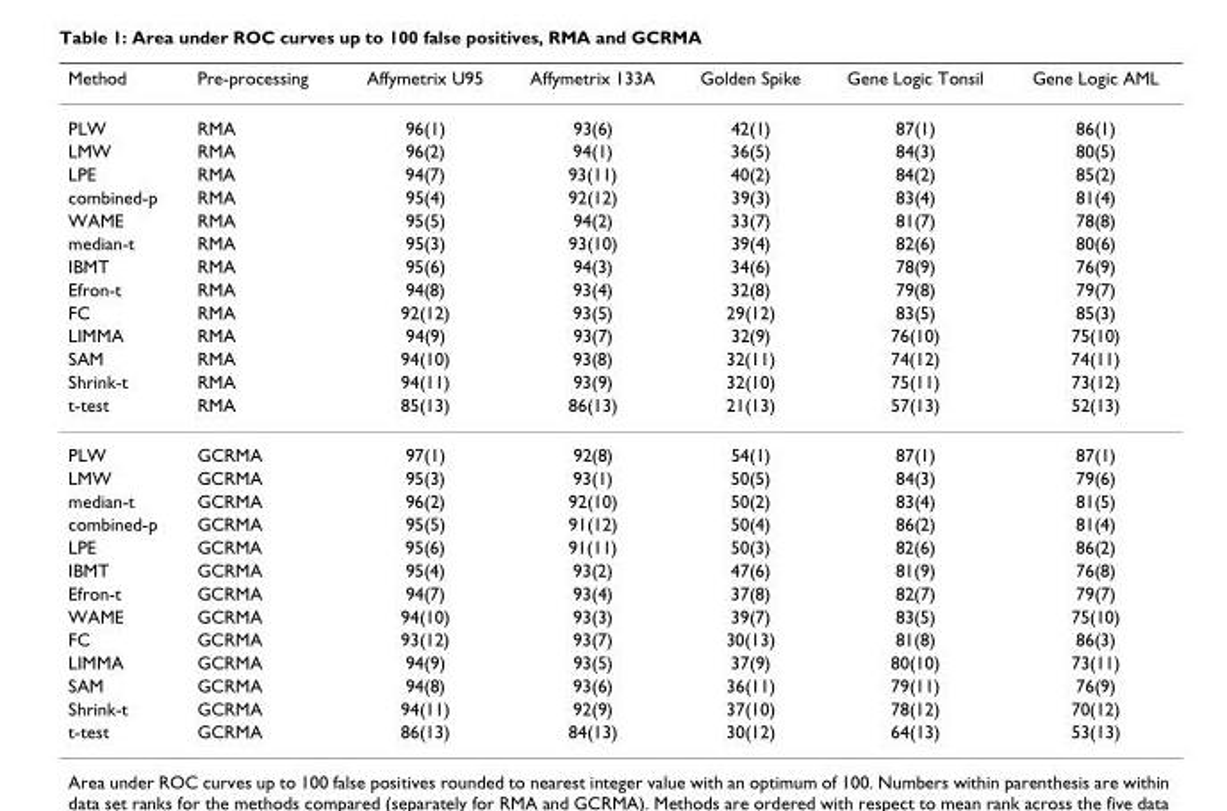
<table><thead><tr><td>Method</td><td>Pre-processing</td><td>Affymetrix U95</td><td>Affymetrix 133A</td><td>Golden Spike</td><td>Gene Logic Tonsil</td><td>Gene Logic AML</td></tr></thead><tbody><tr><td>PLW</td><td>RMA</td><td>96(1)</td><td>93(6)</td><td>42(1)</td><td>87(1)</td><td>86(1)</td></tr><tr><td>LMW</td><td>RMA</td><td>96(2)</td><td>94(1)</td><td>36(5)</td><td>84(3)</td><td>80(5)</td></tr><tr><td>LPE</td><td>RMA</td><td>94(7)</td><td>93(11)</td><td>40(2)</td><td>84(2)</td><td>85(2)</td></tr><tr><td>combined-p</td><td>RMA</td><td>95(4)</td><td>92(12)</td><td>39(3)</td><td>83(4)</td><td>81(4)</td></tr><tr><td>WAME</td><td>RMA</td><td>95(5)</td><td>94(2)</td><td>33(7)</td><td>81(7)</td><td>78(8)</td></tr><tr><td>median-t</td><td>RMA</td><td>95(3)</td><td>93(10)</td><td>39(4)</td><td>82(6)</td><td>80(6)</td></tr><tr><td>IBMT</td><td>RMA</td><td>95(6)</td><td>94(3)</td><td>34(6)</td><td>78(9)</td><td>76(9)</td></tr><tr><td>Efron-t</td><td>RMA</td><td>94(8)</td><td>93(4)</td><td>32(8)</td><td>79(8)</td><td>79(7)</td></tr><tr><td>FC</td><td>RMA</td><td>92(12)</td><td>93(5)</td><td>29(12)</td><td>83(5)</td><td>85(3)</td></tr><tr><td>LIMMA</td><td>RMA</td><td>94(9)</td><td>93(7)</td><td>32(9)</td><td>76(10)</td><td>75(10)</td></tr><tr><td>SAM</td><td>RMA</td><td>94(10)</td><td>93(8)</td><td>32(11)</td><td>74(12)</td><td>74(11)</td></tr><tr><td>Shrink-t</td><td>RMA</td><td>94(11)</td><td>93(9)</td><td>32(10)</td><td>75(11)</td><td>73(12)</td></tr><tr><td>t-test</td><td>RMA</td><td>85(13)</td><td>86(13)</td><td>21(13)</td><td>57(13)</td><td>52(13)</td></tr><tr><td>PLW</td><td>GCRMA</td><td>97(1)</td><td>92(8)</td><td>54(1)</td><td>87(1)</td><td>87(1)</td></tr><tr><td>LMW</td><td>GCRMA</td><td>95(3)</td><td>93(1)</td><td>50(5)</td><td>84(3)</td><td>79(6)</td></tr><tr><td>median-t</td><td>GCRMA</td><td>96(2)</td><td>92(10)</td><td>50(2)</td><td>83(4)</td><td>81(5)</td></tr><tr><td>combined-p</td><td>GCRMA</td><td>95(5)</td><td>91(12)</td><td>50(4)</td><td>86(2)</td><td>81(4)</td></tr><tr><td>LPE</td><td>GCRMA</td><td>95(6)</td><td>91(11)</td><td>50(3)</td><td>82(6)</td><td>86(2)</td></tr><tr><td>IBMT</td><td>GCRMA</td><td>95(4)</td><td>93(2)</td><td>47(6)</td><td>81(9)</td><td>76(8)</td></tr><tr><td>Efron-t</td><td>GCRMA</td><td>94(7)</td><td>93(4)</td><td>37(8)</td><td>82(7)</td><td>79(7)</td></tr><tr><td>WAME</td><td>GCRMA</td><td>94(10)</td><td>93(3)</td><td>39(7)</td><td>83(5)</td><td>75(10)</td></tr><tr><td>FC</td><td>GCRMA</td><td>93(12)</td><td>93(7)</td><td>30(13)</td><td>81(8)</td><td>86(3)</td></tr><tr><td>LIMMA</td><td>GCRMA</td><td>94(9)</td><td>93(5)</td><td>37(9)</td><td>80(10)</td><td>73(11)</td></tr><tr><td>SAM</td><td>GCRMA</td><td>94(8)</td><td>93(6)</td><td>36(11)</td><td>79(11)</td><td>76(9)</td></tr><tr><td>Shrink-t</td><td>GCRMA</td><td>94(11)</td><td>92(9)</td><td>37(10)</td><td>78(12)</td><td>70(12)</td></tr><tr><td>t-test</td><td>GCRMA</td><td>86(13)</td><td>84(13)</td><td>30(12)</td><td>64(13)</td><td>53(13)</td></tr></tbody></table>